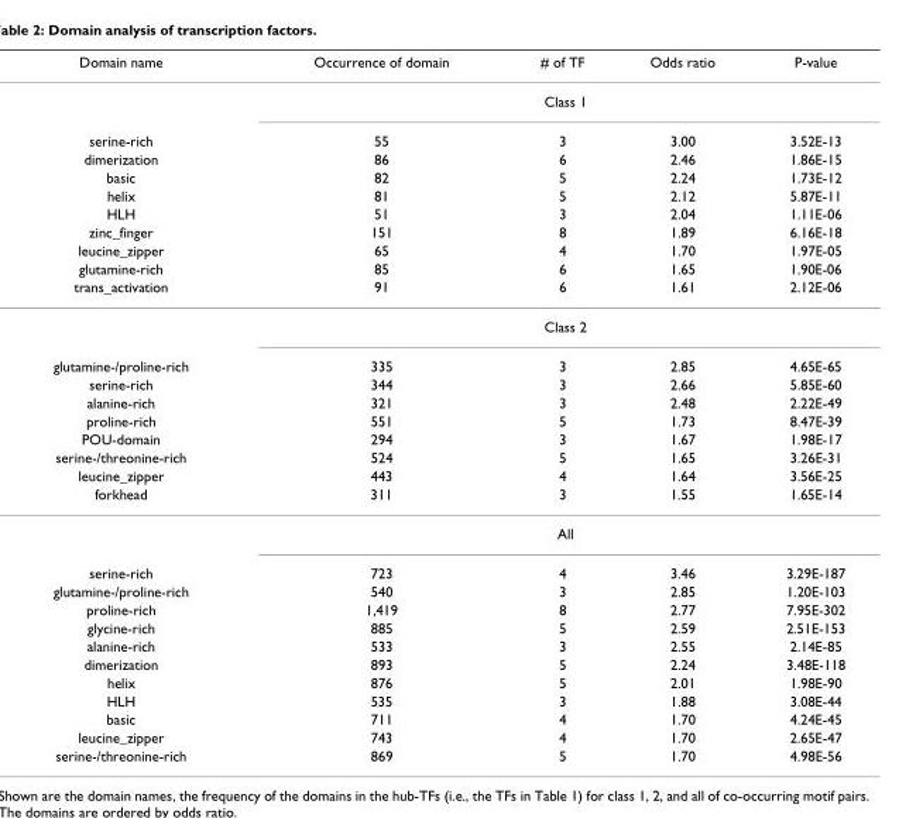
<table><thead><tr><td>Domain name</td><td>Occurrence of domain</td><td># of TF</td><td>Odds ratio</td><td>P-value</td></tr></thead><tbody><tr><td></td><td colspan="4">Class 1</td></tr><tr><td>serine-rich</td><td>55</td><td>3</td><td>3.00</td><td>3.52E-13</td></tr><tr><td>dimerization</td><td>86</td><td>6</td><td>2.46</td><td>1.86E-15</td></tr><tr><td>basic</td><td>82</td><td>5</td><td>2.24</td><td>1.73E-12</td></tr><tr><td>helix</td><td>81</td><td>5</td><td>2.12</td><td>5.87E-11</td></tr><tr><td>HLH</td><td>51</td><td>3</td><td>2.04</td><td>1.11E-06</td></tr><tr><td>zinc_finger</td><td>151</td><td>8</td><td>1.89</td><td>6.16E-18</td></tr><tr><td>leucine_zipper</td><td>65</td><td>4</td><td>1.70</td><td>1.97E-05</td></tr><tr><td>glutamine-rich</td><td>85</td><td>6</td><td>1.65</td><td>1.90E-06</td></tr><tr><td rowspan="2">trans_activation</td><td>91</td><td>6</td><td>1.61</td><td>2.12E-06</td></tr><tr><td colspan="4">Class 2</td></tr><tr><td>glutamine-/proline-rich</td><td>335</td><td>3</td><td>2.85</td><td>4.65E-65</td></tr><tr><td>serine-rich</td><td>344</td><td>3</td><td>2.66</td><td>5.85E-60</td></tr><tr><td>alanine-rich</td><td>321</td><td>3</td><td>2.48</td><td>2.22E-49</td></tr><tr><td>proline-rich</td><td>551</td><td>5</td><td>1.73</td><td>8.47E-39</td></tr><tr><td>POU-domain</td><td>294</td><td>3</td><td>1.67</td><td>1.98E-17</td></tr><tr><td>serine-/threonine-rich</td><td>524</td><td>5</td><td>1.65</td><td>3.26E-31</td></tr><tr><td>leucine_zipper</td><td>443</td><td>4</td><td>1.64</td><td>3.56E-25</td></tr><tr><td rowspan="2">forkhead</td><td>311</td><td>3</td><td>1.55</td><td>1.65E-14</td></tr><tr><td colspan="4">All</td></tr><tr><td>serine-rich</td><td>723</td><td>4</td><td>3.46</td><td>3.29E-187</td></tr><tr><td>glutamine-/proline-rich</td><td>540</td><td>3</td><td>2.85</td><td>1.20E-103</td></tr><tr><td>proline-rich</td><td>1,419</td><td>8</td><td>2.77</td><td>7.95E-302</td></tr><tr><td>glycine-rich</td><td>885</td><td>5</td><td>2.59</td><td>2.51E-153</td></tr><tr><td>alanine-rich</td><td>533</td><td>3</td><td>2.55</td><td>2.14E-85</td></tr><tr><td>dimerization</td><td>893</td><td>5</td><td>2.24</td><td>3.48E-118</td></tr><tr><td>helix</td><td>876</td><td>5</td><td>2.01</td><td>1.98E-90</td></tr><tr><td>HLH</td><td>535</td><td>3</td><td>1.88</td><td>3.08E-44</td></tr><tr><td>basic</td><td>711</td><td>4</td><td>1.70</td><td>4.24E-45</td></tr><tr><td>leucine_zipper</td><td>743</td><td>4</td><td>1.70</td><td>2.65E-47</td></tr><tr><td>serine-/threonine-rich</td><td>869</td><td>5</td><td>1.70</td><td>4.98E-56</td></tr></tbody></table>